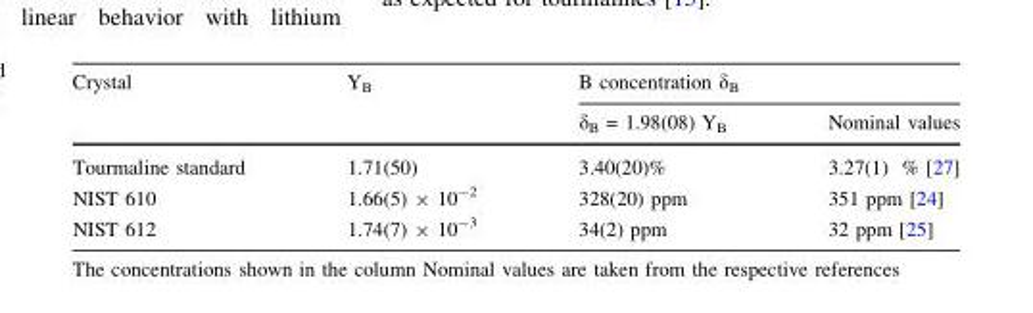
<table><thead><tr><td rowspan="2">Crystal</td><td rowspan="2">Y<sub>B</sub></td><td colspan="2">B concentration δ<sub>B</sub></td></tr><tr><td>δ<sub>B</sub> = 1.98(08) Y<sub>B</sub></td><td>Nominal values</td></tr></thead><tbody><tr><td>Tourmaline standard</td><td>1.71(50)</td><td>3.40(20)%</td><td>3.27(1) % [27]</td></tr><tr><td>NIST 610</td><td>1.66(5) × 10<sup>-2</sup></td><td>328(20) ppm</td><td>351 ppm [24]</td></tr><tr><td>NIST 612</td><td>1.74(7) × 10<sup>-3</sup></td><td>34(2) ppm</td><td>32 ppm [25]</td></tr></tbody></table>